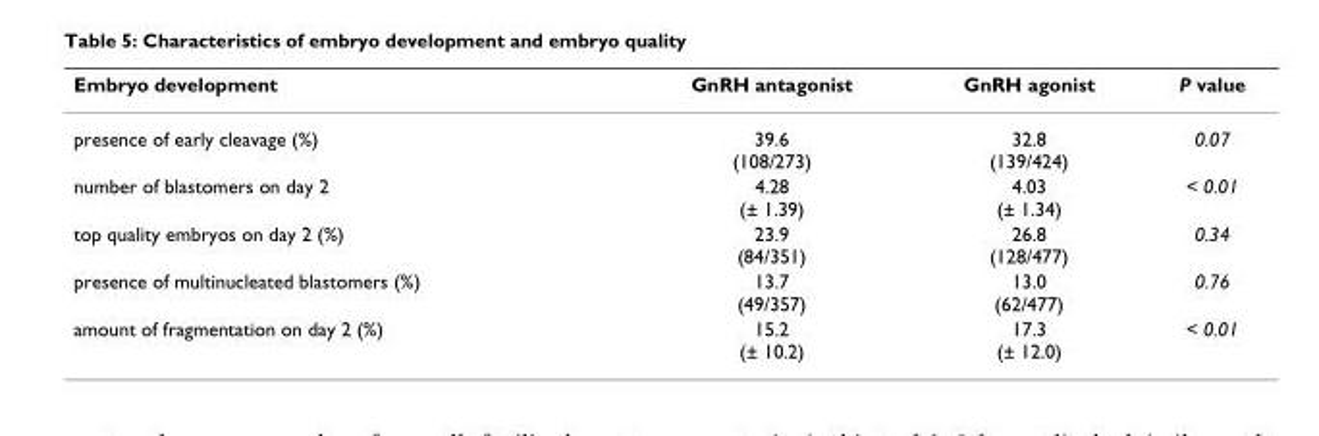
<table><thead><tr><td>Embryo development</td><td>GnRH antagonist</td><td>GnRH agonist</td><td>P value</td></tr></thead><tbody><tr><td>presence of early cleavage (%)</td><td>39.6 (108/273)</td><td>32.8 (139/424)</td><td>0.07</td></tr><tr><td>number of blastomers on day 2</td><td>4.28 (± 1.39)</td><td>4.03 (± 1.34)</td><td>&lt; 0.01</td></tr><tr><td>top quality embryos on day 2 (%)</td><td>23.9 (84/351)</td><td>26.8 (128/477)</td><td>0.34</td></tr><tr><td>presence of multinucleated blastomers (%)</td><td>13.7 (49/357)</td><td>13.0 (62/477)</td><td>0.76</td></tr><tr><td>amount of fragmentation on day 2 (%)</td><td>15.2 (± 10.2)</td><td>17.3 (± 12.0)</td><td>&lt; 0.01</td></tr></tbody></table>